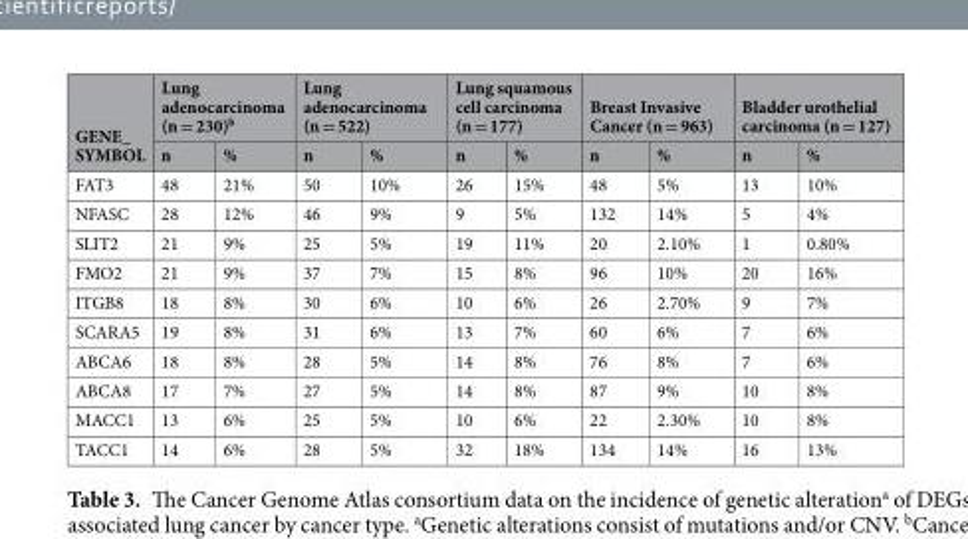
<table><thead><tr><td rowspan="2">GENE_ SYMBOL</td><td colspan="2">Lung adenocarcinoma (n = 230)<sup>b</sup></td><td colspan="2">Lung adenocarcinoma (n = 522)</td><td colspan="2">Lung squamous cell carcinoma (n = 177)</td><td colspan="2">Breast Invasive Cancer (n = 963)</td><td colspan="2">Bladder urothelial carcinoma (n = 127)</td></tr><tr><td>n</td><td>%</td><td>n</td><td>%</td><td>n</td><td>%</td><td>n</td><td>%</td><td>n</td><td>%</td></tr></thead><tbody><tr><td>FAT3</td><td>48</td><td>21%</td><td>50</td><td>10%</td><td>26</td><td>15%</td><td>48</td><td>5%</td><td>13</td><td>10%</td></tr><tr><td>NFASC</td><td>28</td><td>12%</td><td>46</td><td>9%</td><td>9</td><td>5%</td><td>132</td><td>14%</td><td>5</td><td>4%</td></tr><tr><td>SLIT2</td><td>21</td><td>9%</td><td>25</td><td>5%</td><td>19</td><td>11%</td><td>20</td><td>2.10%</td><td>1</td><td>0.80%</td></tr><tr><td>FMO2</td><td>21</td><td>9%</td><td>37</td><td>7%</td><td>15</td><td>8%</td><td>96</td><td>10%</td><td>20</td><td>16%</td></tr><tr><td>ITGB8</td><td>18</td><td>8%</td><td>30</td><td>6%</td><td>10</td><td>6%</td><td>26</td><td>2.70%</td><td>9</td><td>7%</td></tr><tr><td>SCARA5</td><td>19</td><td>8%</td><td>31</td><td>6%</td><td>13</td><td>7%</td><td>60</td><td>6%</td><td>7</td><td>6%</td></tr><tr><td>ABCA6</td><td>18</td><td>8%</td><td>28</td><td>5%</td><td>14</td><td>8%</td><td>76</td><td>8%</td><td>7</td><td>6%</td></tr><tr><td>ABCA8</td><td>17</td><td>7%</td><td>27</td><td>5%</td><td>14</td><td>8%</td><td>87</td><td>9%</td><td>10</td><td>8%</td></tr><tr><td>MACC1</td><td>13</td><td>6%</td><td>25</td><td>5%</td><td>10</td><td>6%</td><td>22</td><td>2.30%</td><td>10</td><td>8%</td></tr><tr><td>TACC1</td><td>14</td><td>6%</td><td>28</td><td>5%</td><td>32</td><td>18%</td><td>134</td><td>14%</td><td>16</td><td>13%</td></tr></tbody></table>